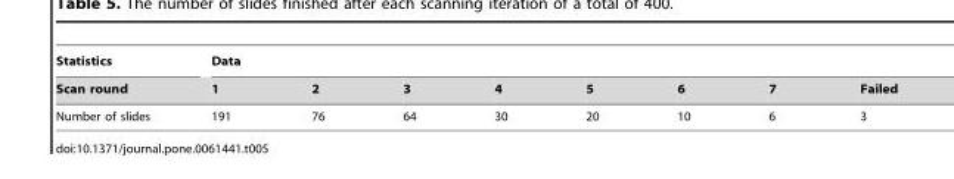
<table><thead><tr><td rowspan="2">Statistics Scan round</td><td colspan="8">Data</td></tr><tr><td>1</td><td>2</td><td>3</td><td>4</td><td>5</td><td>6</td><td>7</td><td>Failed</td></tr></thead><tbody><tr><td>Number of slides</td><td>191</td><td>76</td><td>64</td><td>30</td><td>20</td><td>10</td><td>6</td><td>3</td></tr></tbody></table>